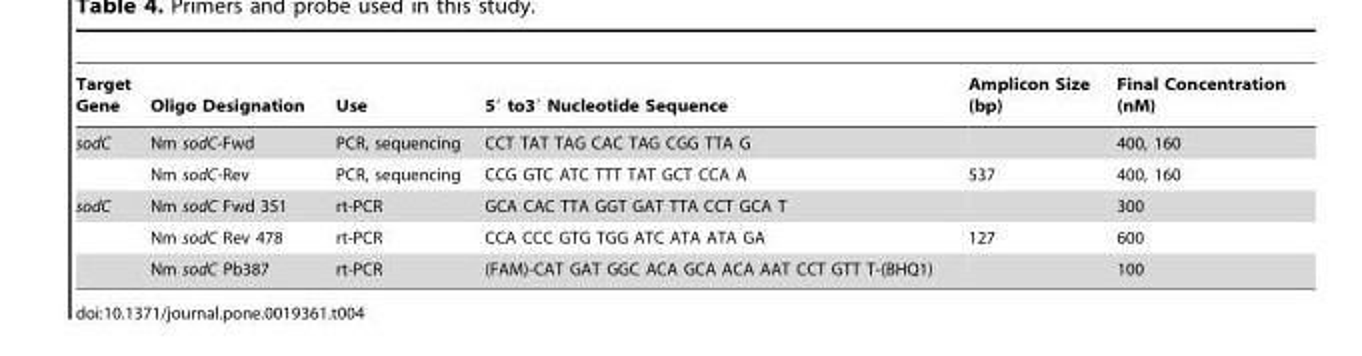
<table><thead><tr><td>Target Gene</td><td>Oligo Designation</td><td>Use</td><td>5′ to3′ Nucleotide Sequence</td><td>Amplicon Size (bp)</td><td>Final Concentration (nM)</td></tr></thead><tbody><tr><td rowspan="2">sodC</td><td>Nm sodC-Fwd</td><td>PCR, sequencing</td><td>CCT TAT TAG CAC TAG CGG TTA G</td><td></td><td>400, 160</td></tr><tr><td>Nm sodC-Rev</td><td>PCR, sequencing</td><td>CCG GTC ATC TTT TAT GCT CCA A</td><td>537</td><td>400, 160</td></tr><tr><td rowspan="3">sodC</td><td>Nm sodC Fwd 351</td><td>rt-PCR</td><td>GCA CAC TTA GGT GAT TTA CCT GCA T</td><td></td><td>300</td></tr><tr><td>Nm sodC Rev 478</td><td>rt-PCR</td><td>CCA CCC GTG TGG ATC ATA ATA GA</td><td>127</td><td>600</td></tr><tr><td>Nm sodC Pb387</td><td>rt-PCR</td><td>(FAM)-CAT GAT GGC ACA GCA ACA AAT CCT GTT T-(BHQ1)</td><td></td><td>100</td></tr></tbody></table>